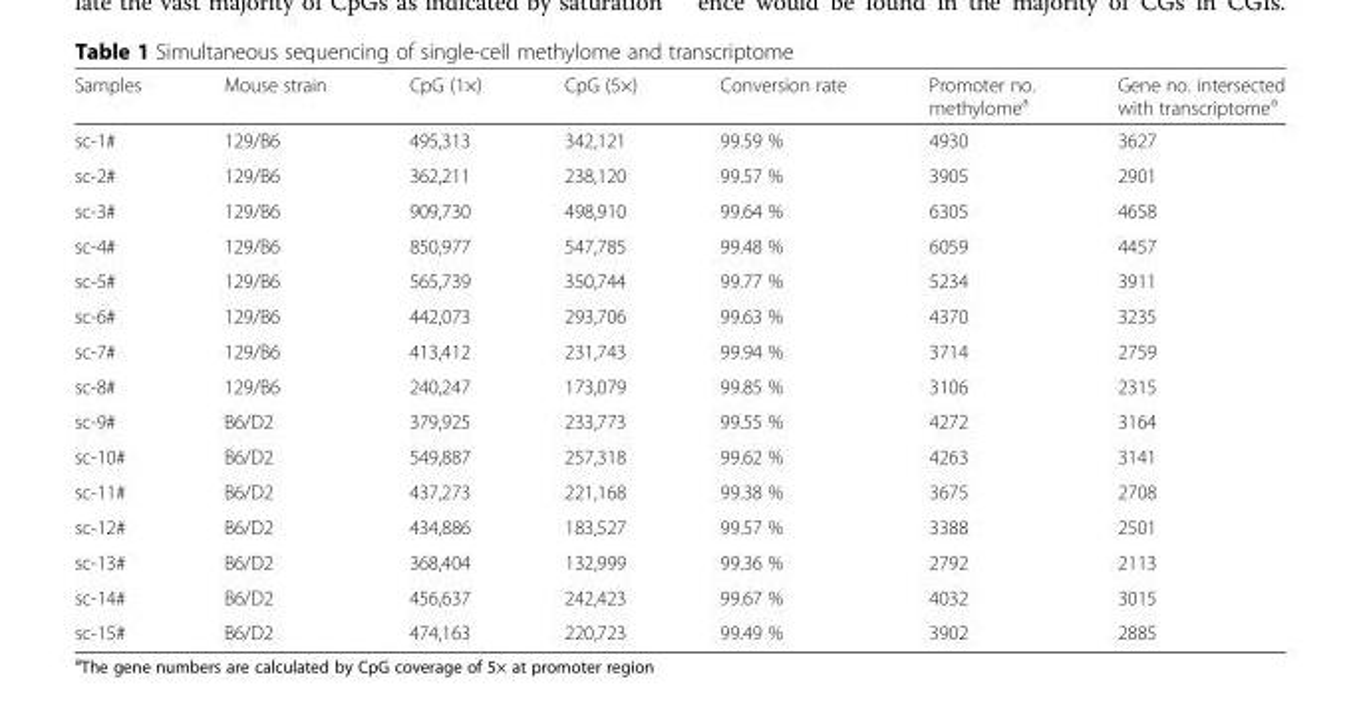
<table><thead><tr><td>Samples</td><td>Mouse strain</td><td>CpG (1×)</td><td>CpG (5×)</td><td>Conversion rate</td><td>Promoter no. methylome<sup>a</sup></td><td>Gene no. intersected with transcriptome<sup>a</sup></td></tr></thead><tbody><tr><td>sc-1#</td><td>129/B6</td><td>495,313</td><td>342,121</td><td>99.59 %</td><td>4930</td><td>3627</td></tr><tr><td>sc-2#</td><td>129/B6</td><td>362,211</td><td>238,120</td><td>99.57 %</td><td>3905</td><td>2901</td></tr><tr><td>sc-3#</td><td>129/B6</td><td>909,730</td><td>498,910</td><td>99.64 %</td><td>6305</td><td>4658</td></tr><tr><td>sc-4#</td><td>129/B6</td><td>850,977</td><td>547,785</td><td>99.48 %</td><td>6059</td><td>4457</td></tr><tr><td>sc-5#</td><td>129/B6</td><td>565,739</td><td>350,744</td><td>99.77 %</td><td>5234</td><td>3911</td></tr><tr><td>sc-6#</td><td>129/B6</td><td>442,073</td><td>293,706</td><td>99.63 %</td><td>4370</td><td>3235</td></tr><tr><td>sc-7#</td><td>129/B6</td><td>413,412</td><td>231,743</td><td>99.94 %</td><td>3714</td><td>2759</td></tr><tr><td>sc-8#</td><td>129/B6</td><td>240,247</td><td>173,079</td><td>99.85 %</td><td>3106</td><td>2315</td></tr><tr><td>sc-9#</td><td>B6/D2</td><td>379,925</td><td>233,773</td><td>99.55 %</td><td>4272</td><td>3164</td></tr><tr><td>sc-10#</td><td>B6/D2</td><td>549,887</td><td>257,318</td><td>99.62 %</td><td>4263</td><td>3141</td></tr><tr><td>sc-11#</td><td>B6/D2</td><td>437,273</td><td>221,168</td><td>99.38 %</td><td>3675</td><td>2708</td></tr><tr><td>sc-12#</td><td>B6/D2</td><td>434,886</td><td>183,527</td><td>99.57 %</td><td>3388</td><td>2501</td></tr><tr><td>sc-13#</td><td>B6/D2</td><td>368,404</td><td>132,999</td><td>99.36 %</td><td>2792</td><td>2113</td></tr><tr><td>sc-14#</td><td>B6/D2</td><td>456,637</td><td>242,423</td><td>99.67 %</td><td>4032</td><td>3015</td></tr><tr><td>sc-15#</td><td>B6/D2</td><td>474,163</td><td>220,723</td><td>99.49 %</td><td>3902</td><td>2885</td></tr></tbody></table>